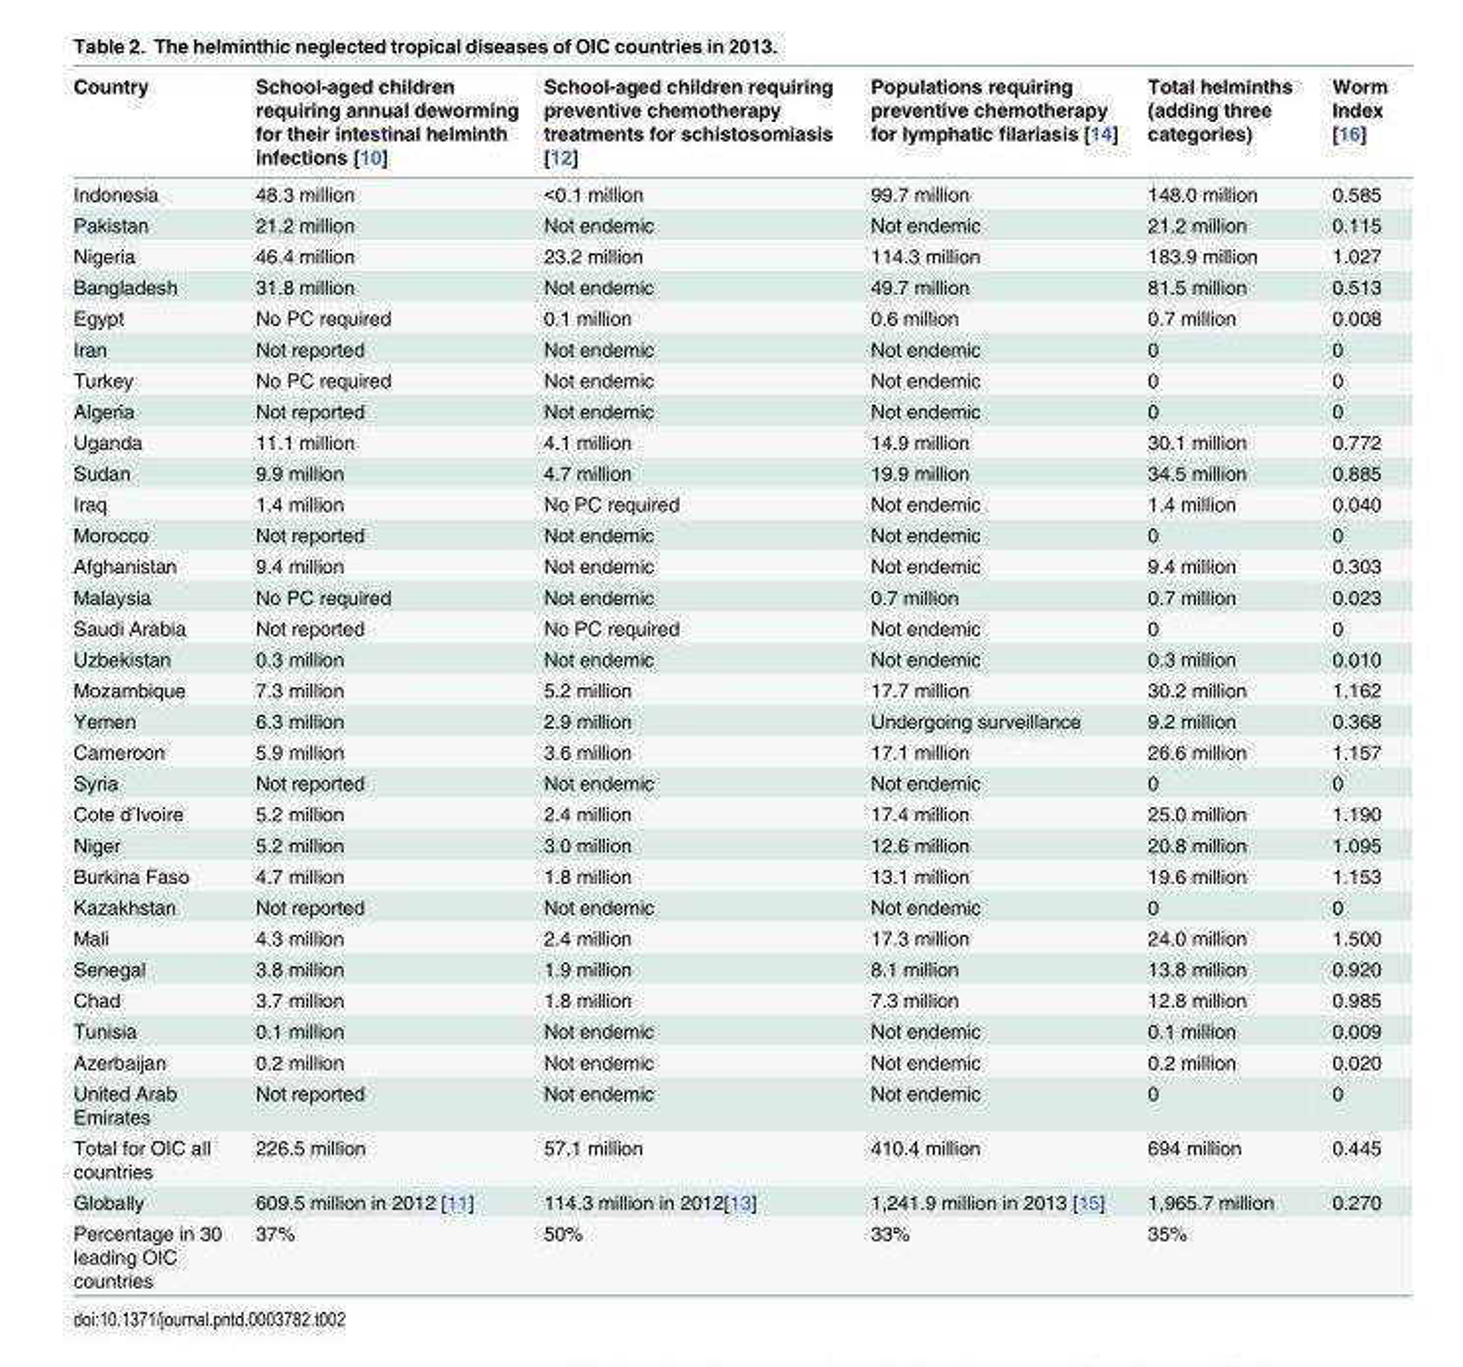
<table><thead><tr><td>Country</td><td>School-aged children requiring annual deworming for their intestinal helminth infections [10]</td><td>School-aged children requiring preventive chemotherapy treatments for schistosomiasis [12]</td><td>Populations requiring preventive chemotherapy for lymphatic filariasis [14]</td><td>Total helminths (adding three categories)</td><td>Worm Index [16]</td></tr></thead><tbody><tr><td>Indonesia</td><td>48.3 million</td><td>&lt;0.1 million</td><td>99.7 million</td><td>148.0 million</td><td>0.585</td></tr><tr><td>Pakistan</td><td>21.2 million</td><td>Not endemic</td><td>Not endemic</td><td>21.2 million</td><td>0.115</td></tr><tr><td>Nigeria</td><td>46.4 million</td><td>23.2 million</td><td>114.3 million</td><td>183.9 million</td><td>1.027</td></tr><tr><td>Bangladesh</td><td>31.8 million</td><td>Not endemic</td><td>49.7 million</td><td>81.5 million</td><td>0.513</td></tr><tr><td>Egypt</td><td>No PC required</td><td>0.1 million</td><td>0.6 million</td><td>0.7 million</td><td>0.008</td></tr><tr><td>Iran</td><td>Not reported</td><td>Not endemic</td><td>Not endemic</td><td>0</td><td>0</td></tr><tr><td>Turkey</td><td>No PC required</td><td>Not endemic</td><td>Not endemic</td><td>0</td><td>0</td></tr><tr><td>Algeria</td><td>Not reported</td><td>Not endemic</td><td>Not endemic</td><td>0</td><td>0</td></tr><tr><td>Uganda</td><td>11.1 million</td><td>4.1 million</td><td>14.9 million</td><td>30.1 million</td><td>0.772</td></tr><tr><td>Sudan</td><td>9.9 million</td><td>4.7 million</td><td>19.9 million</td><td>34.5 million</td><td>0.885</td></tr><tr><td>Iraq</td><td>1.4 million</td><td>No PC required</td><td>Not endemic</td><td>1.4 million</td><td>0.040</td></tr><tr><td>Morocco</td><td>Not reported</td><td>Not endemic</td><td>Not endemic</td><td>0</td><td>0</td></tr><tr><td>Afghanistan</td><td>9.4 million</td><td>Not endemic</td><td>Not endemic</td><td>9.4 million</td><td>0.303</td></tr><tr><td>Malaysia</td><td>No PC required</td><td>Not endemic</td><td>0.7 million</td><td>0.7 million</td><td>0.023</td></tr><tr><td>Saudi Arabia</td><td>Not reported</td><td>No PC required</td><td>Not endemic</td><td>0</td><td>0</td></tr><tr><td>Uzbekistan</td><td>0.3 million</td><td>Not endemic</td><td>Not endemic</td><td>0.3 million</td><td>0.010</td></tr><tr><td>Mozambique</td><td>7.3 million</td><td>5.2 million</td><td>17.7 million</td><td>30.2 million</td><td>1.162</td></tr><tr><td>Yemen</td><td>6.3 million</td><td>2.9 million</td><td>Undergoing surveillance</td><td>9.2 million</td><td>0.368</td></tr><tr><td>Cameroon</td><td>5.9 million</td><td>3.6 million</td><td>17.1 million</td><td>26.6 million</td><td>1.157</td></tr><tr><td>Syria</td><td>Not reported</td><td>Not endemic</td><td>Not endemic</td><td>0</td><td>0</td></tr><tr><td>Cote d’Ivoire</td><td>5.2 million</td><td>2.4 million</td><td>17.4 million</td><td>25.0 million</td><td>1.190</td></tr><tr><td>Niger</td><td>5.2 million</td><td>3.0 million</td><td>12.6 million</td><td>20.8 million</td><td>1.095</td></tr><tr><td>Burkina Faso</td><td>4.7 million</td><td>1.8 million</td><td>13.1 million</td><td>19.6 million</td><td>1.153</td></tr><tr><td>Kazakhstan</td><td>Not reported</td><td>Not endemic</td><td>Not endemic</td><td>0</td><td>0</td></tr><tr><td>Mali</td><td>4.3 million</td><td>2.4 million</td><td>17.3 million</td><td>24.0 million</td><td>1.500</td></tr><tr><td>Senegal</td><td>3.8 million</td><td>1.9 million</td><td>8.1 million</td><td>13.8 million</td><td>0.920</td></tr><tr><td>Chad</td><td>3.7 million</td><td>1.8 million</td><td>7.3 million</td><td>12.8 million</td><td>0.985</td></tr><tr><td>Tunisia</td><td>0.1 million</td><td>Not endemic</td><td>Not endemic</td><td>0.1 million</td><td>0.009</td></tr><tr><td>Azerbaijan</td><td>0.2 million</td><td>Not endemic</td><td>Not endemic</td><td>0.2 million</td><td>0.020</td></tr><tr><td>United Arab Emirates</td><td>Not reported</td><td>Not endemic</td><td>Not endemic</td><td>0</td><td>0</td></tr><tr><td>Total for OIC all countries</td><td>226.5 million</td><td>57.1 million</td><td>410.4 million</td><td>694 million</td><td>0.445</td></tr><tr><td>Globally</td><td>609.5 million in 2012 [11]</td><td>114.3 million in 2012[13]</td><td>1,241.9 million in 2013 [15]</td><td>1,965.7 million</td><td>0.270</td></tr><tr><td>Percentage in 30 leading OIC countries</td><td>37%</td><td>50%</td><td>33%</td><td>35%</td><td></td></tr></tbody></table>